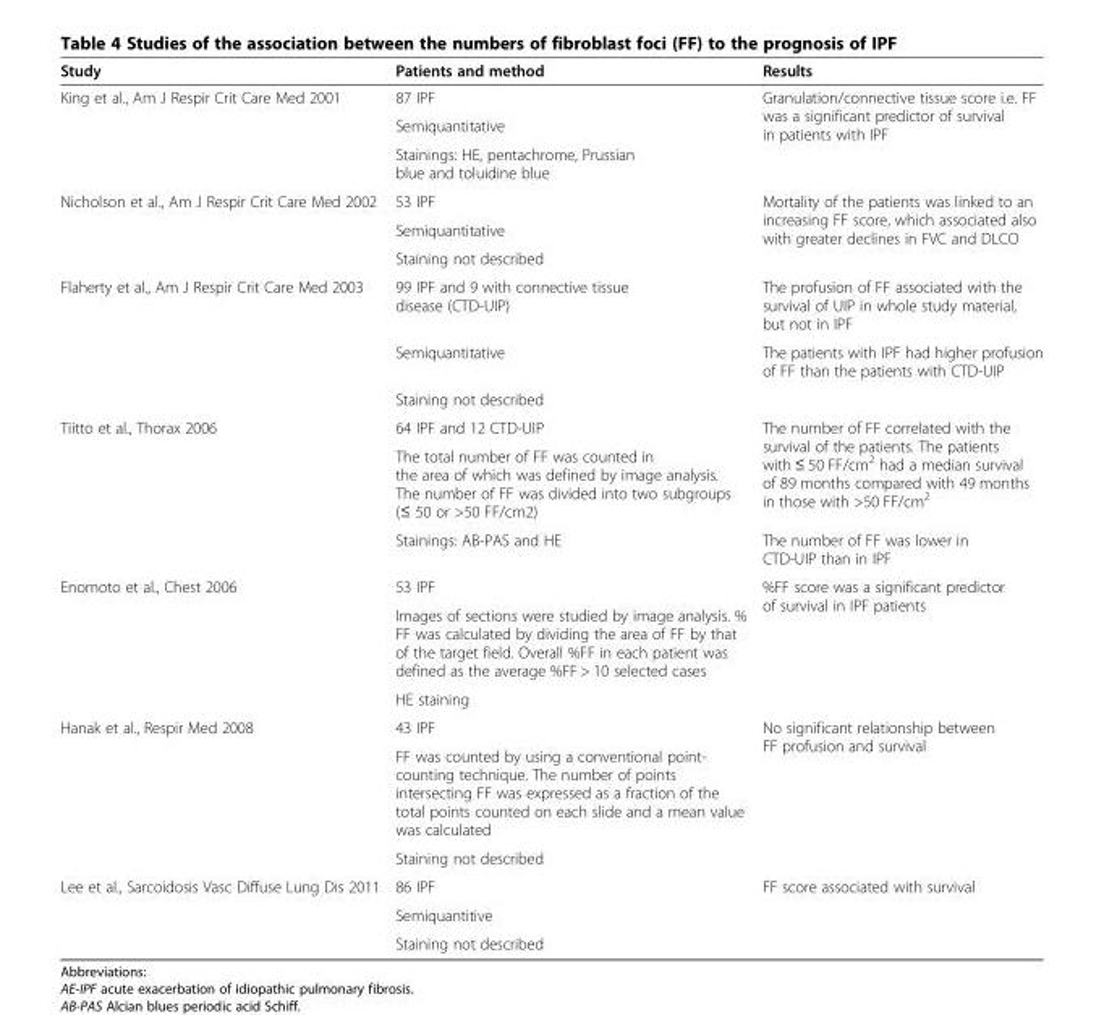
<table><thead><tr><td>Study</td><td>Patients and method</td><td>Results</td></tr></thead><tbody><tr><td rowspan="3">King et al., Am J Respir Crit Care Med 2001</td><td>87 IPF</td><td rowspan="3">Granulation/connective tissue score i.e. FF was a significant predictor of survival in patients with IPF</td></tr><tr><td>Semiquantitative</td></tr><tr><td>Stainings: HE, pentachrome, Prussian blue and toluidine blue</td></tr><tr><td rowspan="3">Nicholson et al., Am J Respir Crit Care Med 2002</td><td>53 IPF</td><td rowspan="3">Mortality of the patients was linked to an increasing FF score, which associated also with greater declines in FVC and DLCO</td></tr><tr><td>Semiquantitative</td></tr><tr><td>Staining not described</td></tr><tr><td rowspan="3">Flaherty et al., Am J Respir Crit Care Med 2003</td><td>99 IPF and 9 with connective tissue disease (CTD-UIP)</td><td>The profusion of FF associated with the survival of UIP in whole study material, but not in IPF</td></tr><tr><td>Semiquantitative</td><td>The patients with IPF had higher profusion of FF than the patients with CTD-UIP</td></tr><tr><td>Staining not described</td><td></td></tr><tr><td rowspan="3">Tiitto et al., Thorax 2006</td><td>64 IPF and 12 CTD-UIP</td><td rowspan="2">The number of FF correlated with the survival of the patients. The patients with ≤ 50 FF/cm<sup>2</sup> had a median survival of 89 months compared with 49 months in those with &gt;50 FF/cm<sup>2</sup></td></tr><tr><td>The total number of FF was counted in the area of which was defined by image analysis. The number of FF was divided into two subgroups (≤ 50 or &gt;50 FF/cm2)</td></tr><tr><td>Stainings: AB-PAS and HE</td><td>The number of FF was lower in CTD-UIP than in IPF</td></tr><tr><td rowspan="3">Enomoto et al., Chest 2006</td><td>53 IPF</td><td rowspan="3">%FF score was a significant predictor of survival in IPF patients</td></tr><tr><td>Images of sections were studied by image analysis. % FF was calculated by dividing the area of FF by that of the target field. Overall %FF in each patient was defined as the average %FF &gt; 10 selected cases</td></tr><tr><td>HE staining</td></tr><tr><td rowspan="3">Hanak et al., Respir Med 2008</td><td>43 IPF</td><td rowspan="3">No significant relationship between FF profusion and survival</td></tr><tr><td>FF was counted by using a conventional point- counting technique. The number of points intersecting FF was expressed as a fraction of the total points counted on each slide and a mean value was calculated</td></tr><tr><td>Staining not described</td></tr><tr><td rowspan="3">Lee et al., Sarcoidosis Vasc Diffuse Lung Dis 2011</td><td>86 IPF</td><td>FF score associated with survival</td></tr><tr><td>Semiquantitive</td><td></td></tr><tr><td>Staining not described</td><td></td></tr></tbody></table>